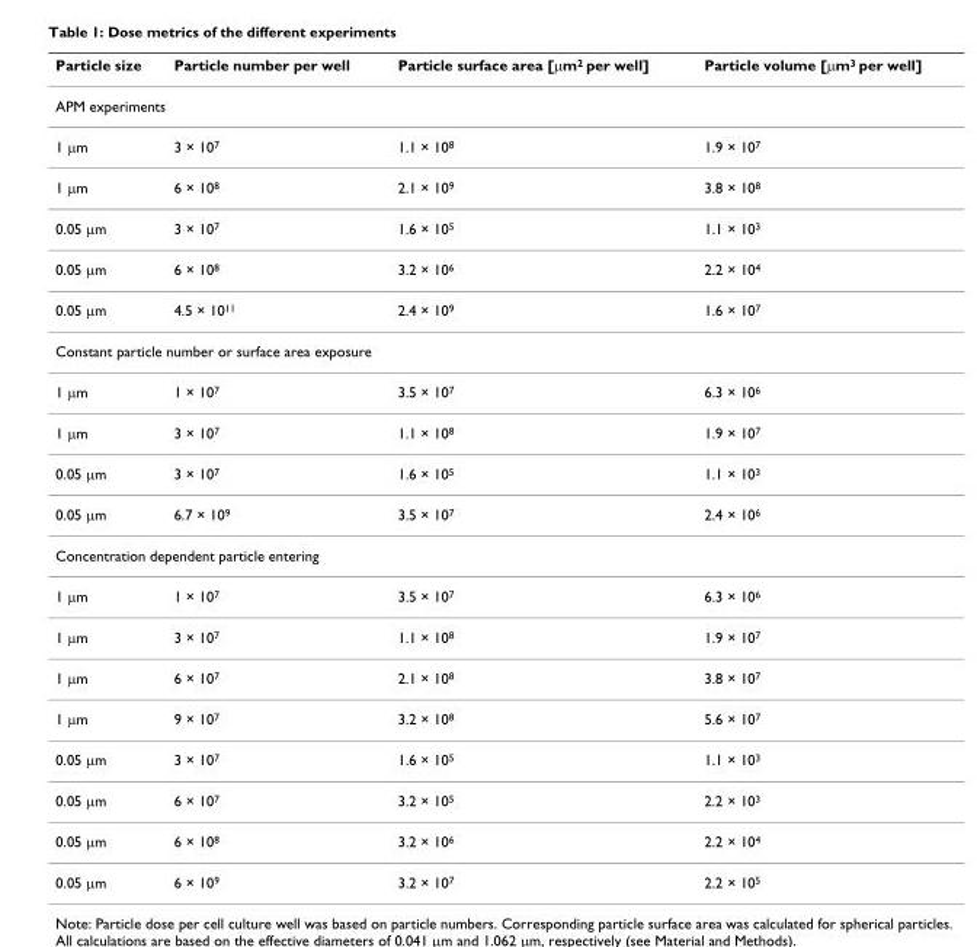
<table><thead><tr><td>Particle size</td><td>Particle number per well</td><td>Particle surface area [μm<sup>2</sup> per well]</td><td>Particle volume [μm<sup>3</sup> per well]</td></tr></thead><tbody><tr><td colspan="4">APM experiments</td></tr><tr><td>1 μm</td><td>3 × 10<sup>7</sup></td><td>1.1 × 10<sup>8</sup></td><td>1.9 × 10<sup>7</sup></td></tr><tr><td>1 μm</td><td>6 × 10<sup>8</sup></td><td>2.1 × 10<sup>9</sup></td><td>3.8 × 10<sup>8</sup></td></tr><tr><td>0.05 μm</td><td>3 × 10<sup>7</sup></td><td>1.6 × 10<sup>5</sup></td><td>1.1 × 10<sup>3</sup></td></tr><tr><td>0.05 μm</td><td>6 × 10<sup>8</sup></td><td>3.2 × 10<sup>6</sup></td><td>2.2 × 10<sup>4</sup></td></tr><tr><td>0.05 μm</td><td>4.5 × 10<sup>11</sup></td><td>2.4 × 10<sup>9</sup></td><td>1.6 × 10<sup>7</sup></td></tr><tr><td colspan="4">Constant particle number or surface area exposure</td></tr><tr><td>1 μm</td><td>1 × 10<sup>7</sup></td><td>3.5 × 10<sup>7</sup></td><td>6.3 × 10<sup>6</sup></td></tr><tr><td>1 μm</td><td>3 × 10<sup>7</sup></td><td>1.1 × 10<sup>8</sup></td><td>1.9 × 10<sup>7</sup></td></tr><tr><td>0.05 μm</td><td>3 × 10<sup>7</sup></td><td>1.6 × 10<sup>5</sup></td><td>1.1 × 10<sup>3</sup></td></tr><tr><td>0.05 μm</td><td>6.7 × 10<sup>9</sup></td><td>3.5 × 10<sup>7</sup></td><td>2.4 × 10<sup>6</sup></td></tr><tr><td colspan="4">Concentration dependent particle entering</td></tr><tr><td>1 μm</td><td>1 × 10<sup>7</sup></td><td>3.5 × 10<sup>7</sup></td><td>6.3 × 10<sup>6</sup></td></tr><tr><td>1 μm</td><td>3 × 10<sup>7</sup></td><td>1.1 × 10<sup>8</sup></td><td>1.9 × 10<sup>7</sup></td></tr><tr><td>1 μm</td><td>6 × 10<sup>7</sup></td><td>2.1 × 10<sup>8</sup></td><td>3.8 × 10<sup>7</sup></td></tr><tr><td>1 μm</td><td>9 × 10<sup>7</sup></td><td>3.2 × 10<sup>8</sup></td><td>5.6 × 10<sup>7</sup></td></tr><tr><td>0.05 μm</td><td>3 × 10<sup>7</sup></td><td>1.6 × 10<sup>5</sup></td><td>1.1 × 10<sup>3</sup></td></tr><tr><td>0.05 μm</td><td>6 × 10<sup>7</sup></td><td>3.2 × 10<sup>5</sup></td><td>2.2 × 10<sup>3</sup></td></tr><tr><td>0.05 μm</td><td>6 × 10<sup>8</sup></td><td>3.2 × 10<sup>6</sup></td><td>2.2 × 10<sup>4</sup></td></tr><tr><td>0.05 μm</td><td>6 × 10<sup>9</sup></td><td>3.2 × 10<sup>7</sup></td><td>2.2 × 10<sup>5</sup></td></tr></tbody></table>